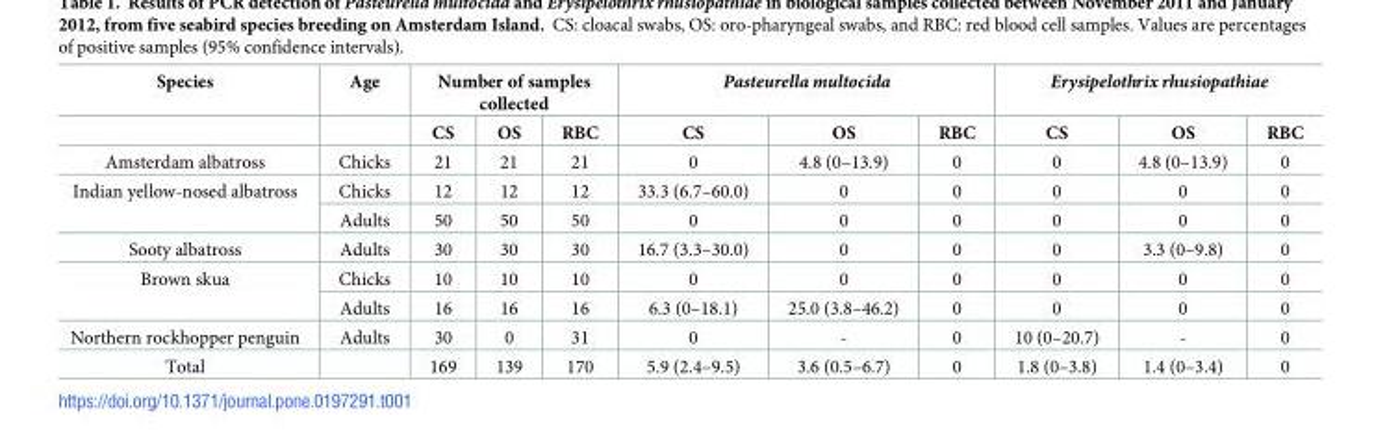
<table><thead><tr><td rowspan="2">Species</td><td rowspan="2">Age</td><td colspan="3">Number of samples collected</td><td colspan="3">Pasteurella multocida</td><td colspan="3">Erysipelothrix rhusiopathiae</td></tr><tr><td>CS</td><td>OS</td><td>RBC</td><td>CS</td><td>OS</td><td>RBC</td><td>CS</td><td>OS</td><td>RBC</td></tr></thead><tbody><tr><td>Amsterdam albatross</td><td>Chicks</td><td>21</td><td>21</td><td>21</td><td>0</td><td>4.8 (0–13.9)</td><td>0</td><td>0</td><td>4.8 (0–13.9)</td><td>0</td></tr><tr><td rowspan="2">Indian yellow-nosed albatross</td><td>Chicks</td><td>12</td><td>12</td><td>12</td><td>33.3 (6.7–60.0)</td><td>0</td><td>0</td><td>0</td><td>0</td><td>0</td></tr><tr><td>Adults</td><td>50</td><td>50</td><td>50</td><td>0</td><td>0</td><td>0</td><td>0</td><td>0</td><td>0</td></tr><tr><td>Sooty albatross</td><td>Adults</td><td>30</td><td>30</td><td>30</td><td>16.7 (3.3–30.0)</td><td>0</td><td>0</td><td>0</td><td>3.3 (0–9.8)</td><td>0</td></tr><tr><td rowspan="2">Brown skua</td><td>Chicks</td><td>10</td><td>10</td><td>10</td><td>0</td><td>0</td><td>0</td><td>0</td><td>0</td><td>0</td></tr><tr><td>Adults</td><td>16</td><td>16</td><td>16</td><td>6.3 (0–18.1)</td><td>25.0 (3.8–46.2)</td><td>0</td><td>0</td><td>0</td><td>0</td></tr><tr><td>Northern rockhopper penguin</td><td>Adults</td><td>30</td><td>0</td><td>31</td><td>0</td><td>-</td><td>0</td><td>10 (0–20.7)</td><td>-</td><td>0</td></tr><tr><td>Total</td><td></td><td>169</td><td>139</td><td>170</td><td>5.9 (2.4–9.5)</td><td>3.6 (0.5–6.7)</td><td>0</td><td>1.8 (0–3.8)</td><td>1.4 (0–3.4)</td><td>0</td></tr></tbody></table>